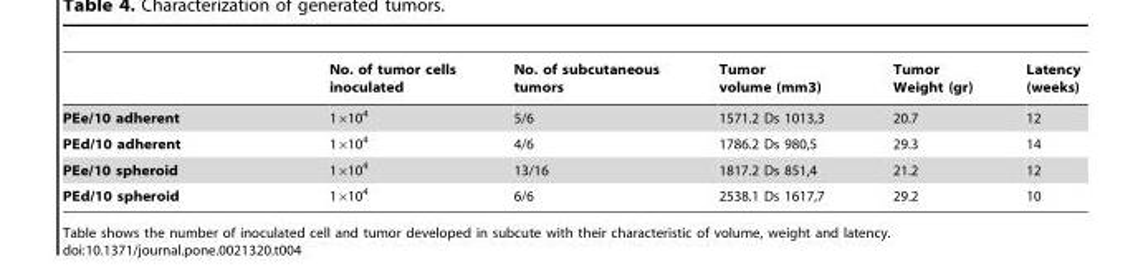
<table><thead><tr><td></td><td>No. of tumor cells inoculated</td><td>No. of subcutaneous tumors</td><td>Tumor volume (mm3)</td><td>Tumor Weight (gr)</td><td>Latency (weeks)</td></tr></thead><tbody><tr><td>PEe/10 adherent</td><td>1×10<sup>4</sup></td><td>5/6</td><td>1571.2 Ds 1013,3</td><td>20.7</td><td>12</td></tr><tr><td>PEd/10 adherent</td><td>1×10<sup>4</sup></td><td>4/6</td><td>1786.2 Ds 980,5</td><td>29.3</td><td>14</td></tr><tr><td>PEe/10 spheroid</td><td>1×10<sup>4</sup></td><td>13/16</td><td>1817.2 Ds 851,4</td><td>21.2</td><td>12</td></tr><tr><td>PEd/10 spheroid</td><td>1×10<sup>4</sup></td><td>6/6</td><td>2538.1 Ds 1617,7</td><td>29.2</td><td>10</td></tr></tbody></table>